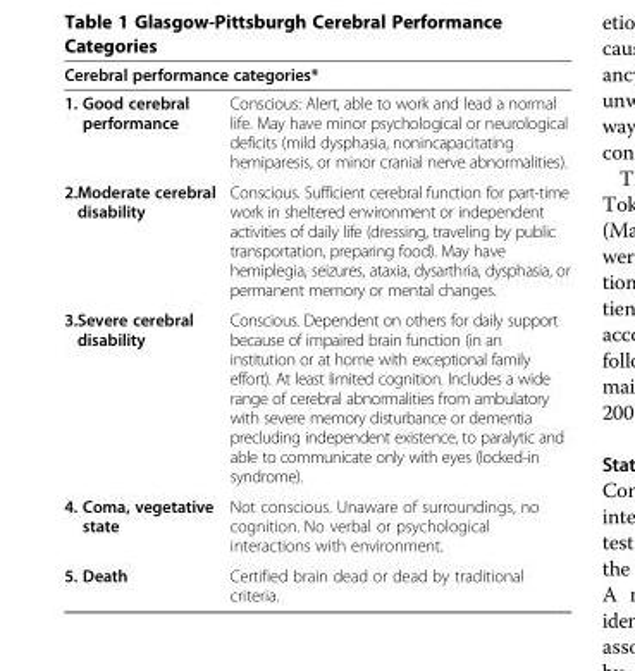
<table><thead><tr><td colspan="2">Cerebral performance categories*</td></tr><tr><td>1. Good cerebral performance</td><td>Conscious: Alert, able to work and lead a normal life. May have minor psychological or neurological deficits (mild dysphasia, nonincapacitating hemiparesis, or minor cranial nerve abnormalities).</td></tr></thead><tbody><tr><td>2.Moderate cerebral disability</td><td>Conscious. Sufficient cerebral function for part-time work in sheltered environment or independent activities of daily life (dressing, traveling by public transportation, preparing food). May have hemiplegia, seizures, ataxia, dysarthria, dysphasia, or permanent memory or mental changes.</td></tr><tr><td>3.Severe cerebral disability</td><td>Conscious. Dependent on others for daily support because of impaired brain function (in an institution or at home with exceptional family effort). At least limited cognition. Includes a wide range of cerebral abnormalities from ambulatory with severe memory disturbance or dementia precluding independent existence, to paralytic and able to communicate only with eyes (locked-in syndrome).</td></tr><tr><td>4. Coma, vegetative state</td><td>Not conscious. Unaware of surroundings, no cognition. No verbal or psychological interactions with environment.</td></tr><tr><td>5. Death</td><td>Certified brain dead or dead by traditional criteria.</td></tr></tbody></table>